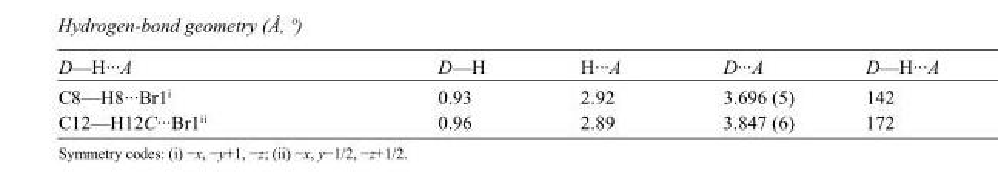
<table><tbody><tr><td>D—H···A</td><td>D—H</td><td>H···A</td><td>D···A</td><td>D—H···A</td></tr><tr><td>C8—H8···Br1<sup>i</sup></td><td>0.93</td><td>2.92</td><td>3.696 (5)</td><td>142</td></tr><tr><td>C12—H12C···Br1<sup>ii</sup></td><td>0.96</td><td>2.89</td><td>3.847 (6)</td><td>172</td></tr></tbody></table>